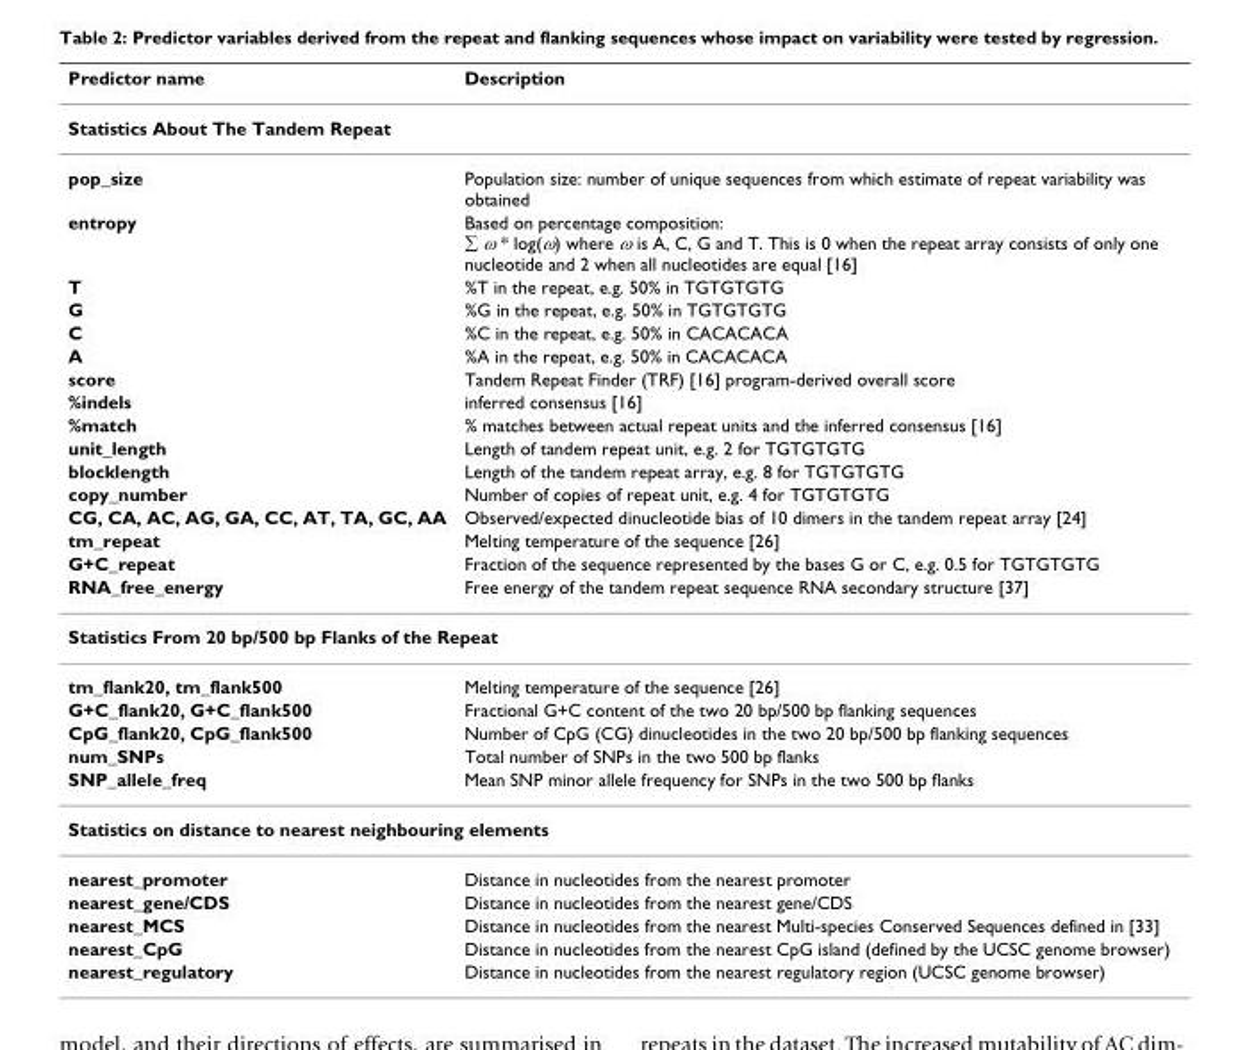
<table><thead><tr><td>Predictor name</td><td>Description</td></tr></thead><tbody><tr><td colspan="2">Statistics About The Tandem Repeat</td></tr><tr><td>pop_size</td><td>Population size: number of unique sequences from which estimate of repeat variability was obtained</td></tr><tr><td>entropy</td><td>Based on percentage composition: ∑ ω * log(ω) where ω is A, C, G and T. This is 0 when the repeat array consists of only one nucleotide and 2 when all nucleotides are equal [16]</td></tr><tr><td>T</td><td>%T in the repeat, e.g. 50% in TGTGTGTG</td></tr><tr><td>G</td><td>%G in the repeat, e.g. 50% in TGTGTGTG</td></tr><tr><td>C</td><td>%C in the repeat, e.g. 50% in CACACACA</td></tr><tr><td>A</td><td>%A in the repeat, e.g. 50% in CACACACA</td></tr><tr><td>score</td><td>Tandem Repeat Finder (TRF) [16] program-derived overall score</td></tr><tr><td>%indels</td><td>inferred consensus [16]</td></tr><tr><td>%match</td><td>% matches between actual repeat units and the inferred consensus [16]</td></tr><tr><td>unit_length</td><td>Length of tandem repeat unit, e.g. 2 for TGTGTGTG</td></tr><tr><td>blocklength</td><td>Length of the tandem repeat array, e.g. 8 for TGTGTGTG</td></tr><tr><td>copy_number</td><td>Number of copies of repeat unit, e.g. 4 for TGTGTGTG</td></tr><tr><td>CG, CA, AC, AG, GA, CC, AT, TA, GC, AA</td><td>Observed/expected dinucleotide bias of 10 dimers in the tandem repeat array [24]</td></tr><tr><td>tm_repeat</td><td>Melting temperature of the sequence [26]</td></tr><tr><td>G+C_repeat</td><td>Fraction of the sequence represented by the bases G or C, e.g. 0.5 for TGTGTGTG</td></tr><tr><td>RNA_free_energy</td><td>Free energy of the tandem repeat sequence RNA secondary structure [37]</td></tr><tr><td colspan="2">Statistics From 20 bp/500 bp Flanks of the Repeat</td></tr><tr><td>tm_flank20, tm_flank500</td><td>Melting temperature of the sequence [26]</td></tr><tr><td>G+C_flank20, G+C_flank500</td><td>Fractional G+C content of the two 20 bp/500 bp flanking sequences</td></tr><tr><td>CpG_flank20, CpG_flank500</td><td>Number of CpG (CG) dinucleotides in the two 20 bp/500 bp flanking sequences</td></tr><tr><td>num_SNPs</td><td>Total number of SNPs in the two 500 bp flanks</td></tr><tr><td>SNP_allele_freq</td><td>Mean SNP minor allele frequency for SNPs in the two 500 bp flanks</td></tr><tr><td colspan="2">Statistics on distance to nearest neighbouring elements</td></tr><tr><td>nearest_promoter</td><td>Distance in nucleotides from the nearest promoter</td></tr><tr><td>nearest_gene/CDS</td><td>Distance in nucleotides from the nearest gene/CDS</td></tr><tr><td>nearest_MCS</td><td>Distance in nucleotides from the nearest Multi-species Conserved Sequences defined in [33]</td></tr><tr><td>nearest_CpG</td><td>Distance in nucleotides from the nearest CpG island (defined by the UCSC genome browser)</td></tr><tr><td>nearest_regulatory</td><td>Distance in nucleotides from the nearest regulatory region (UCSC genome browser)</td></tr></tbody></table>